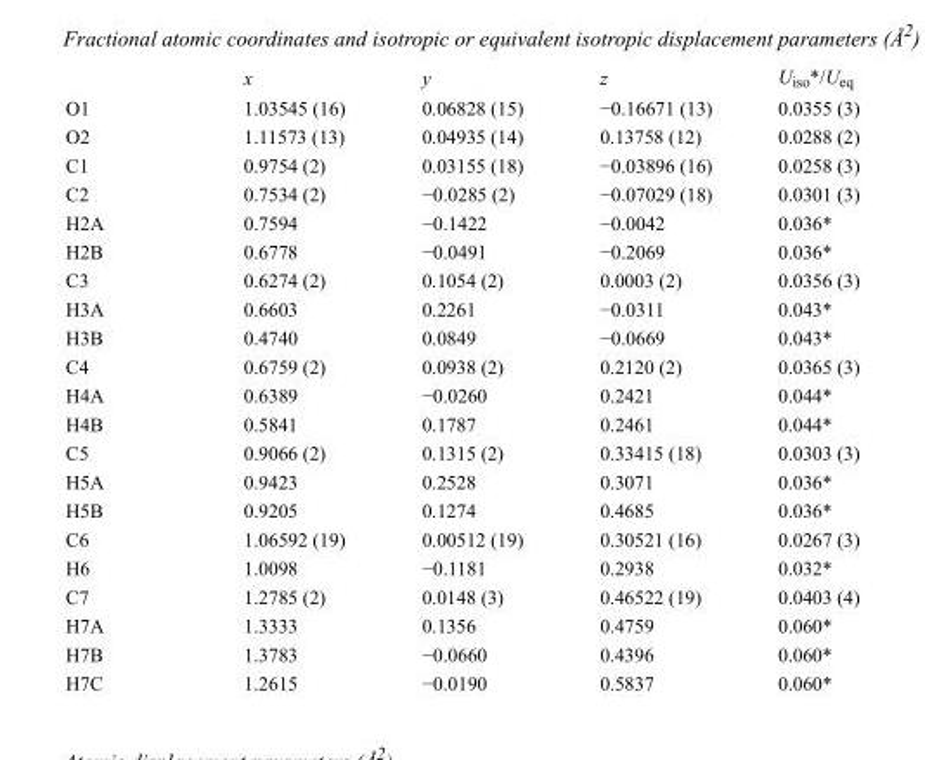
<table><thead><tr><td></td><td>x</td><td>y</td><td>z</td><td>U<sub>iso</sub>*/U<sub>eq</sub></td></tr></thead><tbody><tr><td>O1</td><td>1.03545 (16)</td><td>0.06828 (15)</td><td>−0.16671 (13)</td><td>0.0355 (3)</td></tr><tr><td>O2</td><td>1.11573 (13)</td><td>0.04935 (14)</td><td>0.13758 (12)</td><td>0.0288 (2)</td></tr><tr><td>C1</td><td>0.9754 (2)</td><td>0.03155 (18)</td><td>−0.03896 (16)</td><td>0.0258 (3)</td></tr><tr><td>C2</td><td>0.7534 (2)</td><td>−0.0285 (2)</td><td>−0.07029 (18)</td><td>0.0301 (3)</td></tr><tr><td>H2A</td><td>0.7594</td><td>−0.1422</td><td>−0.0042</td><td>0.036*</td></tr><tr><td>H2B</td><td>0.6778</td><td>−0.0491</td><td>−0.2069</td><td>0.036*</td></tr><tr><td>C3</td><td>0.6274 (2)</td><td>0.1054 (2)</td><td>0.0003 (2)</td><td>0.0356 (3)</td></tr><tr><td>H3A</td><td>0.6603</td><td>0.2261</td><td>−0.0311</td><td>0.043*</td></tr><tr><td>H3B</td><td>0.4740</td><td>0.0849</td><td>−0.0669</td><td>0.043*</td></tr><tr><td>C4</td><td>0.6759 (2)</td><td>0.0938 (2)</td><td>0.2120 (2)</td><td>0.0365 (3)</td></tr><tr><td>H4A</td><td>0.6389</td><td>−0.0260</td><td>0.2421</td><td>0.044*</td></tr><tr><td>H4B</td><td>0.5841</td><td>0.1787</td><td>0.2461</td><td>0.044*</td></tr><tr><td>C5</td><td>0.9066 (2)</td><td>0.1315 (2)</td><td>0.33415 (18)</td><td>0.0303 (3)</td></tr><tr><td>H5A</td><td>0.9423</td><td>0.2528</td><td>0.3071</td><td>0.036*</td></tr><tr><td>H5B</td><td>0.9205</td><td>0.1274</td><td>0.4685</td><td>0.036*</td></tr><tr><td>C6</td><td>1.06592 (19)</td><td>0.00512 (19)</td><td>0.30521 (16)</td><td>0.0267 (3)</td></tr><tr><td>H6</td><td>1.0098</td><td>−0.1181</td><td>0.2938</td><td>0.032*</td></tr><tr><td>C7</td><td>1.2785 (2)</td><td>0.0148 (3)</td><td>0.46522 (19)</td><td>0.0403 (4)</td></tr><tr><td>H7A</td><td>1.3333</td><td>0.1356</td><td>0.4759</td><td>0.060*</td></tr><tr><td>H7B</td><td>1.3783</td><td>−0.0660</td><td>0.4396</td><td>0.060*</td></tr><tr><td>H7C</td><td>1.2615</td><td>−0.0190</td><td>0.5837</td><td>0.060*</td></tr></tbody></table>